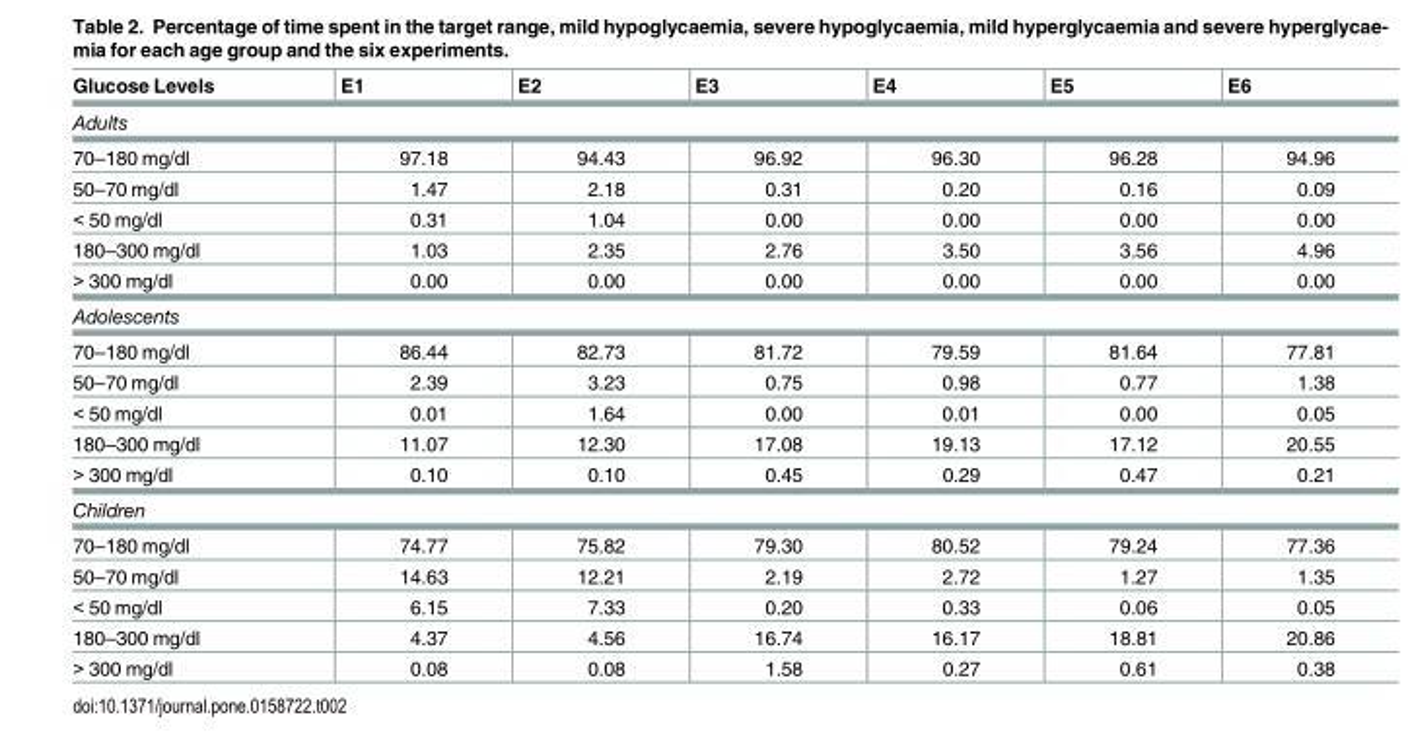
<table><thead><tr><td>Glucose Levels</td><td>E1</td><td>E2</td><td>E3</td><td>E4</td><td>E5</td><td>E6</td></tr></thead><tbody><tr><td colspan="7">Adults</td></tr><tr><td>70–180 mg/dl</td><td>97.18</td><td>94.43</td><td>96.92</td><td>96.30</td><td>96.28</td><td>94.96</td></tr><tr><td>50–70 mg/dl</td><td>1.47</td><td>2.18</td><td>0.31</td><td>0.20</td><td>0.16</td><td>0.09</td></tr><tr><td>&lt; 50 mg/dl</td><td>0.31</td><td>1.04</td><td>0.00</td><td>0.00</td><td>0.00</td><td>0.00</td></tr><tr><td>180–300 mg/dl</td><td>1.03</td><td>2.35</td><td>2.76</td><td>3.50</td><td>3.56</td><td>4.96</td></tr><tr><td>&gt; 300 mg/dl</td><td>0.00</td><td>0.00</td><td>0.00</td><td>0.00</td><td>0.00</td><td>0.00</td></tr><tr><td colspan="7">Adolescents</td></tr><tr><td>70–180 mg/dl</td><td>86.44</td><td>82.73</td><td>81.72</td><td>79.59</td><td>81.64</td><td>77.81</td></tr><tr><td>50–70 mg/dl</td><td>2.39</td><td>3.23</td><td>0.75</td><td>0.98</td><td>0.77</td><td>1.38</td></tr><tr><td>&lt; 50 mg/dl</td><td>0.01</td><td>1.64</td><td>0.00</td><td>0.01</td><td>0.00</td><td>0.05</td></tr><tr><td>180–300 mg/dl</td><td>11.07</td><td>12.30</td><td>17.08</td><td>19.13</td><td>17.12</td><td>20.55</td></tr><tr><td>&gt; 300 mg/dl</td><td>0.10</td><td>0.10</td><td>0.45</td><td>0.29</td><td>0.47</td><td>0.21</td></tr><tr><td colspan="7">Children</td></tr><tr><td>70–180 mg/dl</td><td>74.77</td><td>75.82</td><td>79.30</td><td>80.52</td><td>79.24</td><td>77.36</td></tr><tr><td>50–70 mg/dl</td><td>14.63</td><td>12.21</td><td>2.19</td><td>2.72</td><td>1.27</td><td>1.35</td></tr><tr><td>&lt; 50 mg/dl</td><td>6.15</td><td>7.33</td><td>0.20</td><td>0.33</td><td>0.06</td><td>0.05</td></tr><tr><td>180–300 mg/dl</td><td>4.37</td><td>4.56</td><td>16.74</td><td>16.17</td><td>18.81</td><td>20.86</td></tr><tr><td>&gt; 300 mg/dl</td><td>0.08</td><td>0.08</td><td>1.58</td><td>0.27</td><td>0.61</td><td>0.38</td></tr></tbody></table>